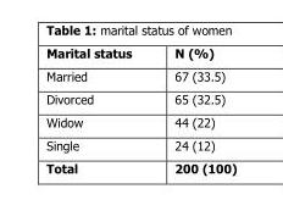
<table><thead><tr><td>Marital status</td><td>N (%)</td></tr></thead><tbody><tr><td>Married</td><td>67 (33.5)</td></tr><tr><td>Divorced</td><td>65 (32.5)</td></tr><tr><td>Widow</td><td>44 (22)</td></tr><tr><td>Single</td><td>24 (12)</td></tr><tr><td>Total</td><td>200 (100)</td></tr></tbody></table>